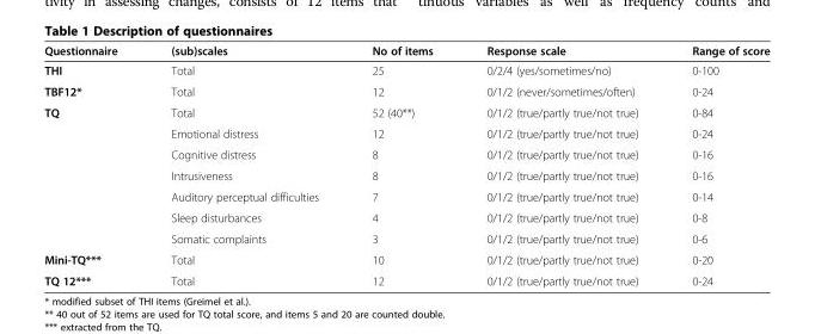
<table><thead><tr><td>Questionnaire</td><td>(sub)scales</td><td>No of items</td><td>Response scale</td><td>Range of score</td></tr></thead><tbody><tr><td>THI</td><td>Total</td><td>25</td><td>0/2/4 (yes/sometimes/no)</td><td>0-100</td></tr><tr><td>TBF12*</td><td>Total</td><td>12</td><td>0/1/2 (never/sometimes/often)</td><td>0-24</td></tr><tr><td rowspan="7">TQ</td><td>Total</td><td>52 (40**)</td><td>0/1/2 (true/partly true/not true)</td><td>0-84</td></tr><tr><td>Emotional distress</td><td>12</td><td>0/1/2 (true/partly true/not true)</td><td>0-24</td></tr><tr><td>Cognitive distress</td><td>8</td><td>0/1/2 (true/partly true/not true)</td><td>0-16</td></tr><tr><td>Intrusiveness</td><td>8</td><td>0/1/2 (true/partly true/not true)</td><td>0-16</td></tr><tr><td>Auditory perceptual difficulties</td><td>7</td><td>0/1/2 (true/partly true/not true)</td><td>0-14</td></tr><tr><td>Sleep disturbances</td><td>4</td><td>0/1/2 (true/partly true/not true)</td><td>0-8</td></tr><tr><td>Somatic complaints</td><td>3</td><td>0/1/2 (true/partly true/not true)</td><td>0-6</td></tr><tr><td>Mini-TQ***</td><td>Total</td><td>10</td><td>0/1/2 (true/partly true/not true)</td><td>0-20</td></tr><tr><td>TQ 12***</td><td>Total</td><td>12</td><td>0/1/2 (true/partly true/not true)</td><td>0-24</td></tr></tbody></table>